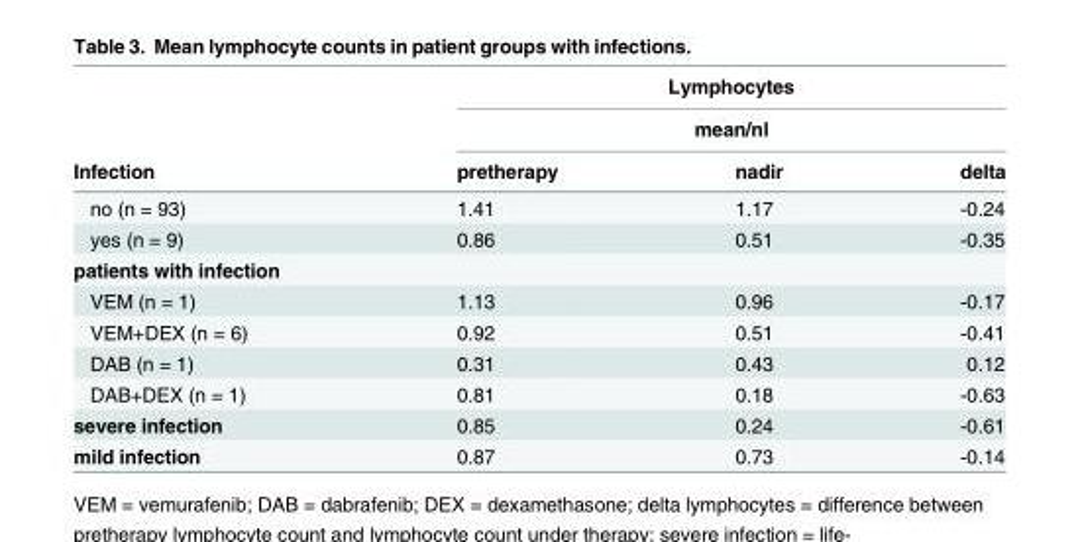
<table><thead><tr><td rowspan="3">Infection</td><td rowspan="2" colspan="3">Lymphocytes mean/nl</td></tr><tr></tr><tr><td>pretherapy</td><td>nadir</td><td>delta</td></tr></thead><tbody><tr><td>no (n = 93)</td><td>1.41</td><td>1.17</td><td>-0.24</td></tr><tr><td>yes (n = 9)</td><td>0.86</td><td>0.51</td><td>-0.35</td></tr><tr><td colspan="4">patients with infection</td></tr><tr><td>VEM (n = 1)</td><td>1.13</td><td>0.96</td><td>-0.17</td></tr><tr><td>VEM+DEX (n = 6)</td><td>0.92</td><td>0.51</td><td>-0.41</td></tr><tr><td>DAB (n = 1)</td><td>0.31</td><td>0.43</td><td>0.12</td></tr><tr><td>DAB+DEX (n = 1)</td><td>0.81</td><td>0.18</td><td>-0.63</td></tr><tr><td>severe infection</td><td>0.85</td><td>0.24</td><td>-0.61</td></tr><tr><td>mild infection</td><td>0.87</td><td>0.73</td><td>-0.14</td></tr></tbody></table>